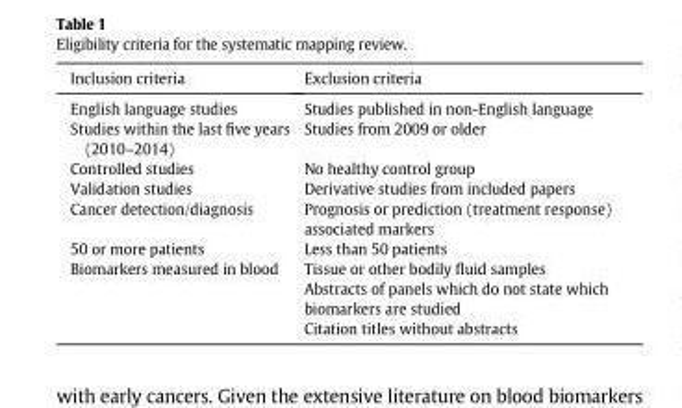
<table><thead><tr><td>Inclusion criteria</td><td>Exclusion criteria</td></tr></thead><tbody><tr><td>English language studies</td><td>Studies published in non-English language</td></tr><tr><td>Studies within the last five years (2010–2014)</td><td>Studies from 2009 or older</td></tr><tr><td>Controlled studies</td><td>No healthy control group</td></tr><tr><td>Validation studies</td><td>Derivative studies from included papers</td></tr><tr><td>Cancer detection/diagnosis</td><td>Prognosis or prediction (treatment response) associated markers</td></tr><tr><td>50 or more patients</td><td>Less than 50 patients</td></tr><tr><td rowspan="3">Biomarkers measured in blood</td><td>Tissue or other bodily fluid samples</td></tr><tr><td>Abstracts of panels which do not state which biomarkers are studied</td></tr><tr><td>Citation titles without abstracts</td></tr></tbody></table>